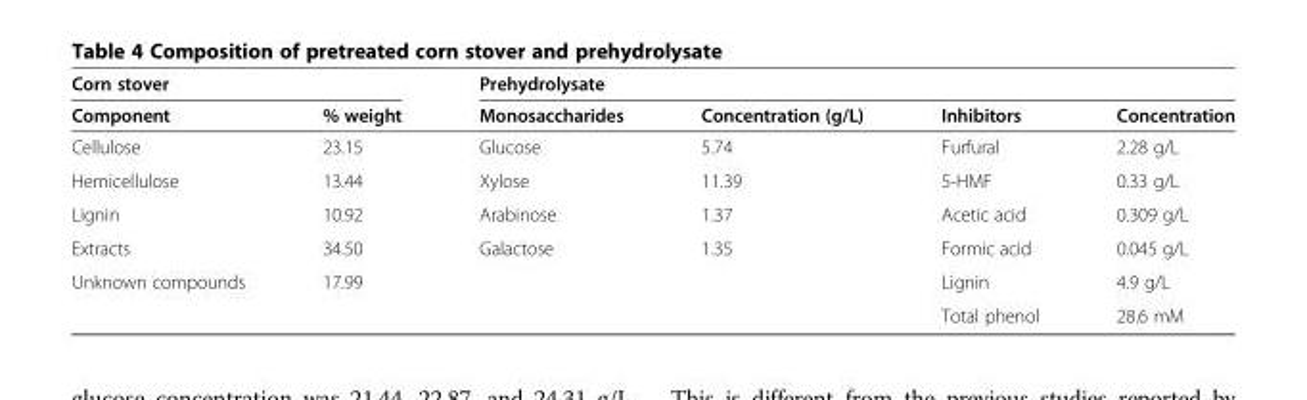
<table><thead><tr><td colspan="2">Corn stover</td><td colspan="4">Prehydrolysate</td></tr><tr><td>Component</td><td>% weight</td><td>Monosaccharides</td><td>Concentration (g/L)</td><td>Inhibitors</td><td>Concentration</td></tr></thead><tbody><tr><td>Cellulose</td><td>23.15</td><td>Glucose</td><td>5.74</td><td>Furfural</td><td>2.28 g/L</td></tr><tr><td>Hemicellulose</td><td>13.44</td><td>Xylose</td><td>11.39</td><td>5-HMF</td><td>0.33 g/L</td></tr><tr><td>Lignin</td><td>10.92</td><td>Arabinose</td><td>1.37</td><td>Acetic acid</td><td>0.309 g/L</td></tr><tr><td>Extracts</td><td>34.50</td><td>Galactose</td><td>1.35</td><td>Formic acid</td><td>0.045 g/L</td></tr><tr><td rowspan="2">Unknown compounds</td><td>17.99</td><td></td><td></td><td>Lignin</td><td>4.9 g/L</td></tr><tr><td></td><td></td><td></td><td>Total phenol</td><td>28.6 mM</td></tr></tbody></table>